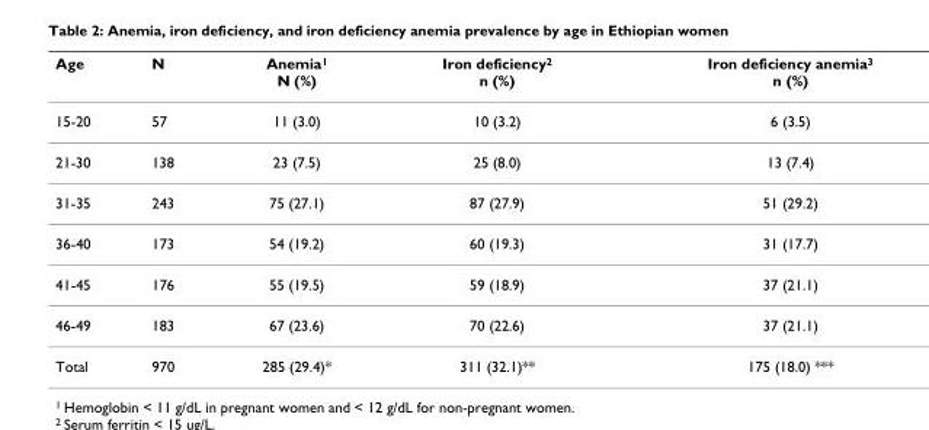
<table><thead><tr><td>Age</td><td>N</td><td>Anemia<sup>1</sup> N (%)</td><td>Iron deficiency<sup>2</sup> n (%)</td><td>Iron deficiency anemia<sup>3</sup> n (%)</td></tr></thead><tbody><tr><td>15-20</td><td>57</td><td>11 (3.0)</td><td>10 (3.2)</td><td>6 (3.5)</td></tr><tr><td>21-30</td><td>138</td><td>23 (7.5)</td><td>25 (8.0)</td><td>13 (7.4)</td></tr><tr><td>31-35</td><td>243</td><td>75 (27.1)</td><td>87 (27.9)</td><td>51 (29.2)</td></tr><tr><td>36-40</td><td>173</td><td>54 (19.2)</td><td>60 (19.3)</td><td>31 (17.7)</td></tr><tr><td>41-45</td><td>176</td><td>55 (19.5)</td><td>59 (18.9)</td><td>37 (21.1)</td></tr><tr><td>46-49</td><td>183</td><td>67 (23.6)</td><td>70 (22.6)</td><td>37 (21.1)</td></tr><tr><td>Total</td><td>970</td><td>285 (29.4)*</td><td>311 (32.1)**</td><td>175 (18.0) ***</td></tr></tbody></table>